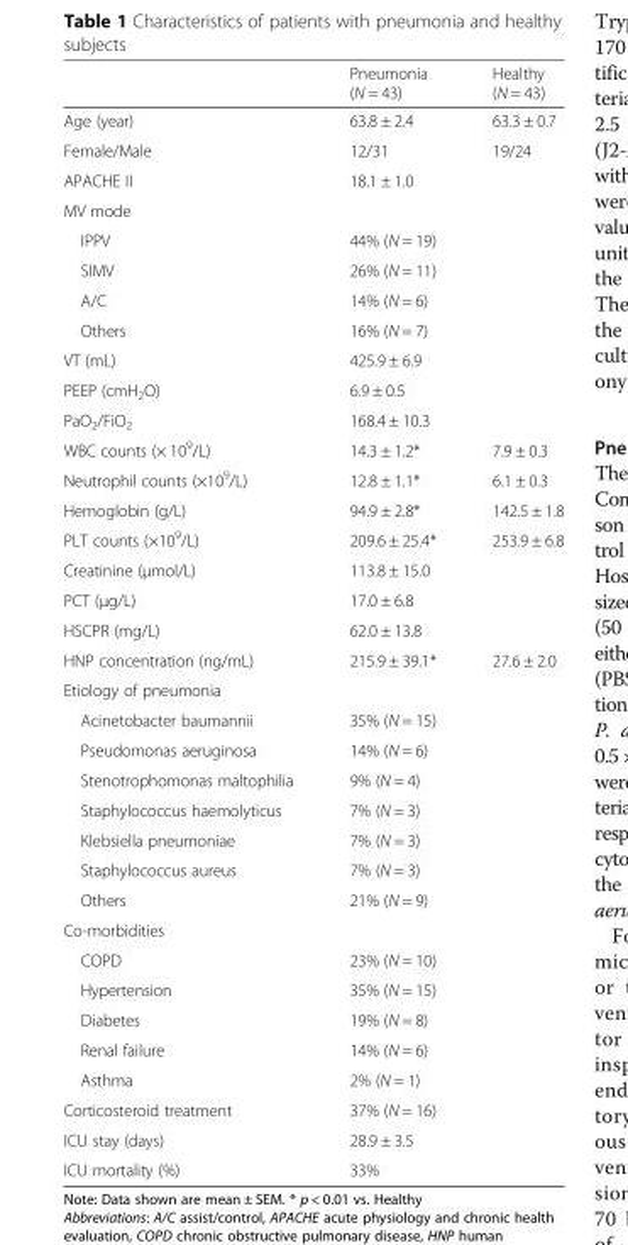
<table><thead><tr><td></td><td>Pneumonia (N = 43)</td><td>Healthy (N = 43)</td></tr></thead><tbody><tr><td>Age (year)</td><td>63.8 ± 2.4</td><td>63.3 ± 0.7</td></tr><tr><td>Female/Male</td><td>12/31</td><td>19/24</td></tr><tr><td>APACHE II</td><td>18.1 ± 1.0</td><td></td></tr><tr><td colspan="3">MV mode</td></tr><tr><td>IPPV</td><td>44% (N = 19)</td><td></td></tr><tr><td>SIMV</td><td>26% (N = 11)</td><td></td></tr><tr><td>A/C</td><td>14% (N = 6)</td><td></td></tr><tr><td>Others</td><td>16% (N = 7)</td><td></td></tr><tr><td>VT (mL)</td><td>425.9 ± 6.9</td><td></td></tr><tr><td>PEEP (cmH<sub>2</sub>O)</td><td>6.9 ± 0.5</td><td></td></tr><tr><td>PaO<sub>2</sub>/FiO<sub>2</sub></td><td>168.4 ± 10.3</td><td></td></tr><tr><td>WBC counts (× 10<sup>9</sup>/L)</td><td>14.3 ± 1.2*</td><td>7.9 ± 0.3</td></tr><tr><td>Neutrophil counts (×10<sup>9</sup>/L)</td><td>12.8 ± 1.1*</td><td>6.1 ± 0.3</td></tr><tr><td>Hemoglobin (g/L)</td><td>94.9 ± 2.8*</td><td>142.5 ± 1.8</td></tr><tr><td>PLT counts (×10<sup>9</sup>/L)</td><td>209.6 ± 25.4*</td><td>253.9 ± 6.8</td></tr><tr><td>Creatinine (μmol/L)</td><td>113.8 ± 15.0</td><td></td></tr><tr><td>PCT (μg/L)</td><td>17.0 ± 6.8</td><td></td></tr><tr><td>HSCPR (mg/L)</td><td>62.0 ± 13.8</td><td></td></tr><tr><td>HNP concentration (ng/mL)</td><td>215.9 ± 39.1*</td><td>27.6 ± 2.0</td></tr><tr><td colspan="3">Etiology of pneumonia</td></tr><tr><td>Acinetobacter baumannii</td><td>35% (N = 15)</td><td></td></tr><tr><td>Pseudomonas aeruginosa</td><td>14% (N = 6)</td><td></td></tr><tr><td>Stenotrophomonas maltophilia</td><td>9% (N = 4)</td><td></td></tr><tr><td>Staphylococcus haemolyticus</td><td>7% (N = 3)</td><td></td></tr><tr><td>Klebsiella pneumoniae</td><td>7% (N = 3)</td><td></td></tr><tr><td>Staphylococcus aureus</td><td>7% (N = 3)</td><td></td></tr><tr><td>Others</td><td>21% (N = 9)</td><td></td></tr><tr><td colspan="3">Co-morbidities</td></tr><tr><td>COPD</td><td>23% (N = 10)</td><td></td></tr><tr><td>Hypertension</td><td>35% (N = 15)</td><td></td></tr><tr><td>Diabetes</td><td>19% (N = 8)</td><td></td></tr><tr><td>Renal failure</td><td>14% (N = 6)</td><td></td></tr><tr><td>Asthma</td><td>2% (N = 1)</td><td></td></tr><tr><td>Corticosteroid treatment</td><td>37% (N = 16)</td><td></td></tr><tr><td>ICU stay (days)</td><td>28.9 ± 3.5</td><td></td></tr><tr><td>ICU mortality (%)</td><td>33%</td><td></td></tr></tbody></table>